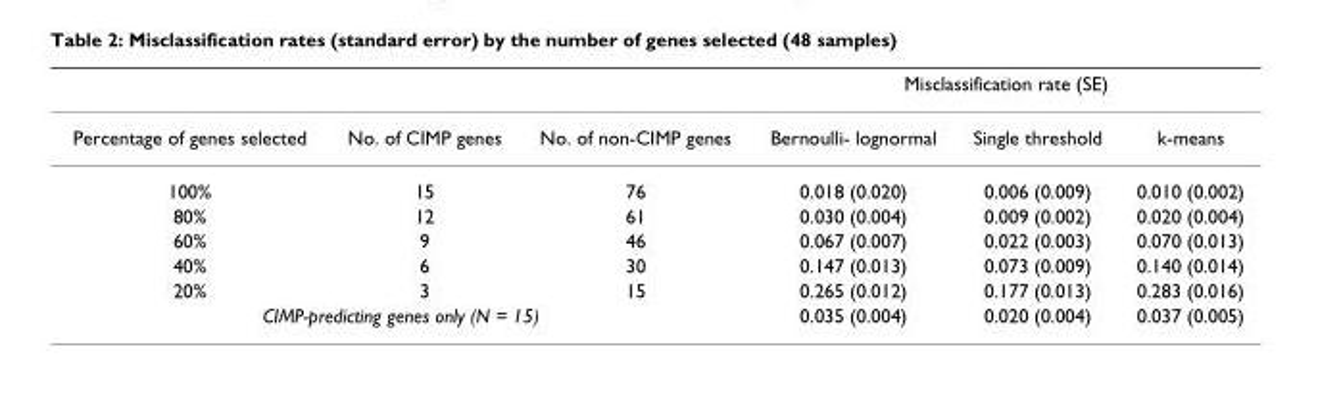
<table><thead><tr><td rowspan="2">Percentage of genes selected</td><td rowspan="2">No. of CIMP genes</td><td rowspan="2">No. of non-CIMP genes</td><td colspan="3">Misclassification rate (SE)</td></tr><tr><td>Bernoulli- lognormal</td><td>Single threshold</td><td>k-means</td></tr></thead><tbody><tr><td>100%</td><td>15</td><td>76</td><td>0.018 (0.020)</td><td>0.006 (0.009)</td><td>0.010 (0.002)</td></tr><tr><td>80%</td><td>12</td><td>61</td><td>0.030 (0.004)</td><td>0.009 (0.002)</td><td>0.020 (0.004)</td></tr><tr><td>60%</td><td>9</td><td>46</td><td>0.067 (0.007)</td><td>0.022 (0.003)</td><td>0.070 (0.013)</td></tr><tr><td>40%</td><td>6</td><td>30</td><td>0.147 (0.013)</td><td>0.073 (0.009)</td><td>0.140 (0.014)</td></tr><tr><td>20%</td><td>3</td><td>15</td><td>0.265 (0.012)</td><td>0.177 (0.013)</td><td>0.283 (0.016)</td></tr><tr><td colspan="3">CIMP-predicting genes only (N = 15)</td><td>0.035 (0.004)</td><td>0.020 (0.004)</td><td>0.037 (0.005)</td></tr></tbody></table>